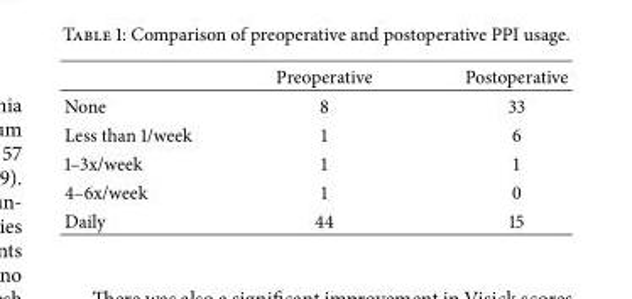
<table><thead><tr><td></td><td>Preoperative</td><td>Postoperative</td></tr></thead><tbody><tr><td>None</td><td>8</td><td>33</td></tr><tr><td>Less than 1/week</td><td>1</td><td>6</td></tr><tr><td>1–3x/week</td><td>1</td><td>1</td></tr><tr><td>4–6x/week</td><td>1</td><td>0</td></tr><tr><td>Daily</td><td>44</td><td>15</td></tr></tbody></table>